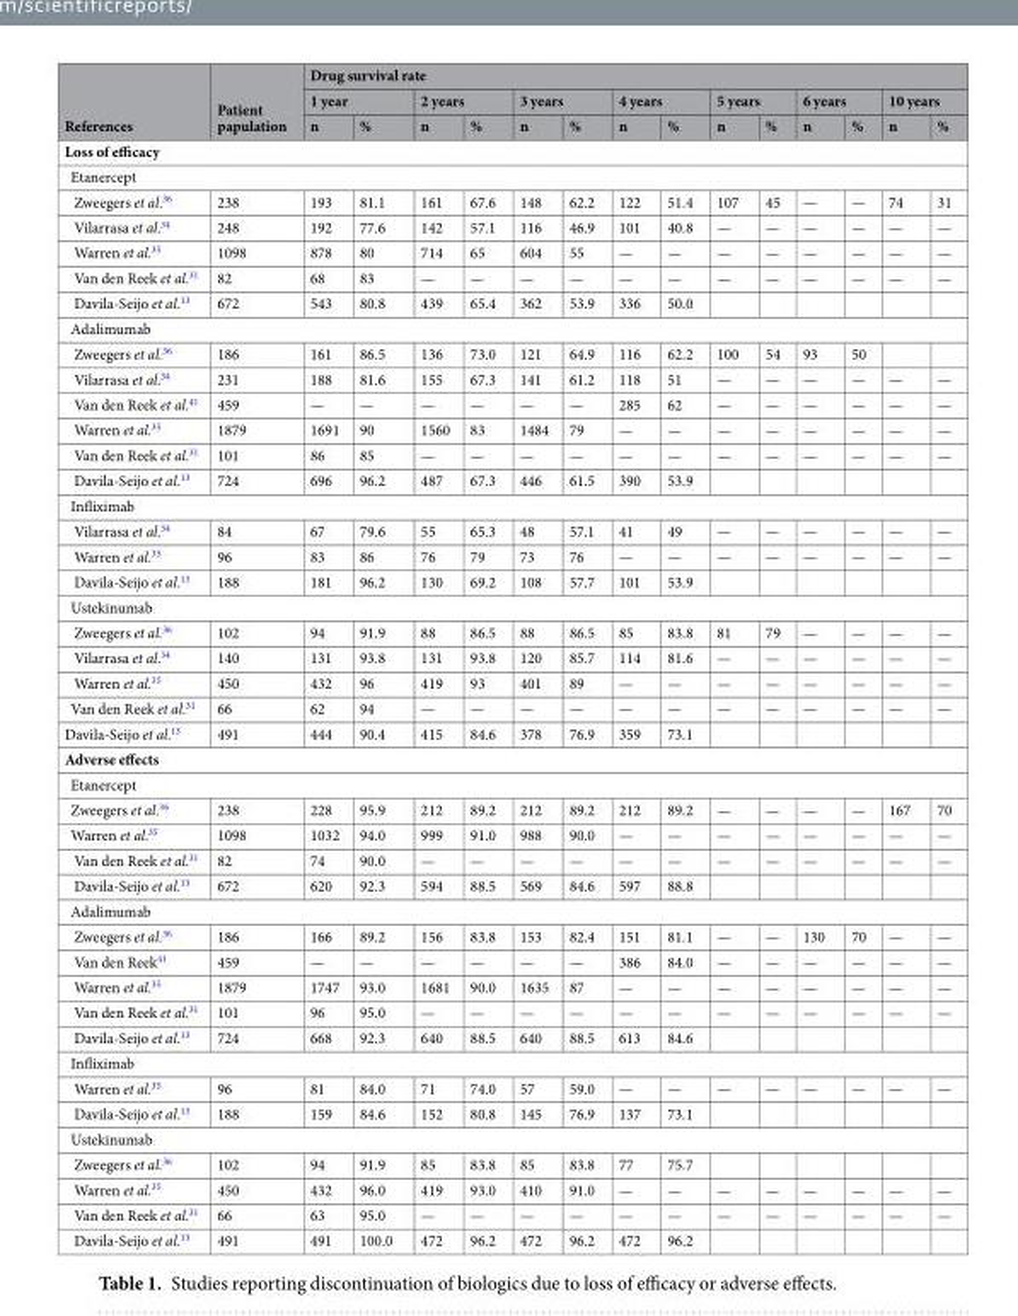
<table><thead><tr><td rowspan="3">References</td><td rowspan="3">Patient papulation</td><td colspan="14">Drug survival rate</td></tr><tr><td colspan="2">1 year</td><td colspan="2">2 years</td><td colspan="2">3 years</td><td colspan="2">4 years</td><td colspan="2">5 years</td><td colspan="2">6 years</td><td colspan="2">10 years</td></tr><tr><td>n</td><td>%</td><td>n</td><td>%</td><td>n</td><td>%</td><td>n</td><td>%</td><td>n</td><td>%</td><td>n</td><td>%</td><td>n</td><td>%</td></tr></thead><tbody><tr><td colspan="16">Loss of efficacy</td></tr><tr><td colspan="16">Etanercept</td></tr><tr><td>Zweegers et al.<sup>36</sup></td><td>238</td><td>193</td><td>81.1</td><td>161</td><td>67.6</td><td>148</td><td>62.2</td><td>122</td><td>51.4</td><td>107</td><td>45</td><td>—</td><td>—</td><td>74</td><td>31</td></tr><tr><td>Vilarrasa et al.<sup>34</sup></td><td>248</td><td>192</td><td>77.6</td><td>142</td><td>57.1</td><td>116</td><td>46.9</td><td>101</td><td>40.8</td><td>—</td><td>—</td><td>—</td><td>—</td><td>—</td><td>—</td></tr><tr><td>Warren et al.<sup>35</sup></td><td>1098</td><td>878</td><td>80</td><td>714</td><td>65</td><td>604</td><td>55</td><td>—</td><td>—</td><td>—</td><td>—</td><td>—</td><td>—</td><td>—</td><td>—</td></tr><tr><td>Van den Reek et al.<sup>31</sup></td><td>82</td><td>68</td><td>83</td><td>—</td><td>—</td><td>—</td><td>—</td><td>—</td><td>—</td><td>—</td><td>—</td><td>—</td><td>—</td><td>—</td><td>—</td></tr><tr><td>Davila-Seijo et al.<sup>13</sup></td><td>672</td><td>543</td><td>80.8</td><td>439</td><td>65.4</td><td>362</td><td>53.9</td><td>336</td><td>50.0</td><td></td><td></td><td></td><td></td><td></td><td></td></tr><tr><td colspan="16">Adalimumab</td></tr><tr><td>Zweegers et al.<sup>36</sup></td><td>186</td><td>161</td><td>86.5</td><td>136</td><td>73.0</td><td>121</td><td>64.9</td><td>116</td><td>62.2</td><td>100</td><td>54</td><td>93</td><td>50</td><td></td><td></td></tr><tr><td>Vilarrasa et al.<sup>34</sup></td><td>231</td><td>188</td><td>81.6</td><td>155</td><td>67.3</td><td>141</td><td>61.2</td><td>118</td><td>51</td><td>—</td><td>—</td><td>—</td><td>—</td><td>—</td><td>—</td></tr><tr><td>Van den Reek et al.<sup>41</sup></td><td>459</td><td>—</td><td>—</td><td>—</td><td>—</td><td>—</td><td>—</td><td>285</td><td>62</td><td>—</td><td>—</td><td>—</td><td>—</td><td>—</td><td>—</td></tr><tr><td>Warren et al.<sup>35</sup></td><td>1879</td><td>1691</td><td>90</td><td>1560</td><td>83</td><td>1484</td><td>79</td><td>—</td><td>—</td><td>—</td><td>—</td><td>—</td><td>—</td><td>—</td><td>—</td></tr><tr><td>Van den Reek et al.<sup>31</sup></td><td>101</td><td>86</td><td>85</td><td>—</td><td>—</td><td>—</td><td>—</td><td>—</td><td>—</td><td>—</td><td>—</td><td>—</td><td>—</td><td>—</td><td>—</td></tr><tr><td>Davila-Seijo et al.<sup>13</sup></td><td>724</td><td>696</td><td>96.2</td><td>487</td><td>67.3</td><td>446</td><td>61.5</td><td>390</td><td>53.9</td><td></td><td></td><td></td><td></td><td></td><td></td></tr><tr><td colspan="16">Infliximab</td></tr><tr><td>Vilarrasa et al.<sup>34</sup></td><td>84</td><td>67</td><td>79.6</td><td>55</td><td>65.3</td><td>48</td><td>57.1</td><td>41</td><td>49</td><td>—</td><td>—</td><td>—</td><td>—</td><td>—</td><td>—</td></tr><tr><td>Warren et al.<sup>35</sup></td><td>96</td><td>83</td><td>86</td><td>76</td><td>79</td><td>73</td><td>76</td><td>—</td><td>—</td><td>—</td><td>—</td><td>—</td><td>—</td><td>—</td><td>—</td></tr><tr><td>Davila-Seijo et al.<sup>13</sup></td><td>188</td><td>181</td><td>96.2</td><td>130</td><td>69.2</td><td>108</td><td>57.7</td><td>101</td><td>53.9</td><td></td><td></td><td></td><td></td><td></td><td></td></tr><tr><td colspan="16">Ustekinumab</td></tr><tr><td>Zweegers et al.<sup>36</sup></td><td>102</td><td>94</td><td>91.9</td><td>88</td><td>86.5</td><td>88</td><td>86.5</td><td>85</td><td>83.8</td><td>81</td><td>79</td><td>—</td><td>—</td><td>—</td><td>—</td></tr><tr><td>Vilarrasa et al.<sup>34</sup></td><td>140</td><td>131</td><td>93.8</td><td>131</td><td>93.8</td><td>120</td><td>85.7</td><td>114</td><td>81.6</td><td>—</td><td>—</td><td>—</td><td>—</td><td>—</td><td>—</td></tr><tr><td>Warren et al.<sup>35</sup></td><td>450</td><td>432</td><td>96</td><td>419</td><td>93</td><td>401</td><td>89</td><td>—</td><td>—</td><td>—</td><td>—</td><td>—</td><td>—</td><td>—</td><td>—</td></tr><tr><td>Van den Reek et al.<sup>31</sup></td><td>66</td><td>62</td><td>94</td><td>—</td><td>—</td><td>—</td><td>—</td><td>—</td><td>—</td><td>—</td><td>—</td><td>—</td><td>—</td><td>—</td><td>—</td></tr><tr><td>Davila-Seijo et al.<sup>13</sup></td><td>491</td><td>444</td><td>90.4</td><td>415</td><td>84.6</td><td>378</td><td>76.9</td><td>359</td><td>73.1</td><td></td><td></td><td></td><td></td><td></td><td></td></tr><tr><td colspan="16">Adverse effects</td></tr><tr><td colspan="16">Etanercept</td></tr><tr><td>Zweegers et al.<sup>36</sup></td><td>238</td><td>228</td><td>95.9</td><td>212</td><td>89.2</td><td>212</td><td>89.2</td><td>212</td><td>89.2</td><td>—</td><td>—</td><td>—</td><td>—</td><td>167</td><td>70</td></tr><tr><td>Warren et al.<sup>35</sup></td><td>1098</td><td>1032</td><td>94.0</td><td>999</td><td>91.0</td><td>988</td><td>90.0</td><td>—</td><td>—</td><td>—</td><td>—</td><td>—</td><td>—</td><td>—</td><td>—</td></tr><tr><td>Van den Reek et al.<sup>31</sup></td><td>82</td><td>74</td><td>90.0</td><td>—</td><td>—</td><td>—</td><td>—</td><td>—</td><td>—</td><td>—</td><td>—</td><td>—</td><td>—</td><td>—</td><td>—</td></tr><tr><td>Davila-Seijo et al.<sup>13</sup></td><td>672</td><td>620</td><td>92.3</td><td>594</td><td>88.5</td><td>569</td><td>84.6</td><td>597</td><td>88.8</td><td></td><td></td><td></td><td></td><td></td><td></td></tr><tr><td colspan="16">Adalimumab</td></tr><tr><td>Zweegers et al.<sup>36</sup></td><td>186</td><td>166</td><td>89.2</td><td>156</td><td>83.8</td><td>153</td><td>82.4</td><td>151</td><td>81.1</td><td>—</td><td>—</td><td>130</td><td>70</td><td>—</td><td>—</td></tr><tr><td>Van den Reek<sup>41</sup></td><td>459</td><td>—</td><td>—</td><td>—</td><td>—</td><td>—</td><td>—</td><td>386</td><td>84.0</td><td>—</td><td>—</td><td>—</td><td>—</td><td>—</td><td>—</td></tr><tr><td>Warren et al.<sup>35</sup></td><td>1879</td><td>1747</td><td>93.0</td><td>1681</td><td>90.0</td><td>1635</td><td>87</td><td>—</td><td>—</td><td>—</td><td>—</td><td>—</td><td>—</td><td>—</td><td>—</td></tr><tr><td>Van den Reek et al.<sup>31</sup></td><td>101</td><td>96</td><td>95.0</td><td>—</td><td>—</td><td>—</td><td>—</td><td>—</td><td>—</td><td>—</td><td>—</td><td>—</td><td>—</td><td>—</td><td>—</td></tr><tr><td>Davila-Seijo et al.<sup>13</sup></td><td>724</td><td>668</td><td>92.3</td><td>640</td><td>88.5</td><td>640</td><td>88.5</td><td>613</td><td>84.6</td><td></td><td></td><td></td><td></td><td></td><td></td></tr><tr><td colspan="16">Infliximab</td></tr><tr><td>Warren et al.<sup>35</sup></td><td>96</td><td>81</td><td>84.0</td><td>71</td><td>74.0</td><td>57</td><td>59.0</td><td>—</td><td>—</td><td>—</td><td>—</td><td>—</td><td>—</td><td>—</td><td>—</td></tr><tr><td>Davila-Seijo et al.<sup>13</sup></td><td>188</td><td>159</td><td>84.6</td><td>152</td><td>80.8</td><td>145</td><td>76.9</td><td>137</td><td>73.1</td><td></td><td></td><td></td><td></td><td></td><td></td></tr><tr><td colspan="16">Ustekinumab</td></tr><tr><td>Zweegers et al.<sup>36</sup></td><td>102</td><td>94</td><td>91.9</td><td>85</td><td>83.8</td><td>85</td><td>83.8</td><td>77</td><td>75.7</td><td></td><td></td><td></td><td></td><td></td><td></td></tr><tr><td>Warren et al.<sup>35</sup></td><td>450</td><td>432</td><td>96.0</td><td>419</td><td>93.0</td><td>410</td><td>91.0</td><td>—</td><td>—</td><td>—</td><td>—</td><td>—</td><td>—</td><td>—</td><td>—</td></tr><tr><td>Van den Reek et al.<sup>31</sup></td><td>66</td><td>63</td><td>95.0</td><td>—</td><td>—</td><td>—</td><td>—</td><td>—</td><td>—</td><td>—</td><td>—</td><td>—</td><td>—</td><td>—</td><td>—</td></tr><tr><td>Davila-Seijo et al.<sup>13</sup></td><td>491</td><td>491</td><td>100.0</td><td>472</td><td>96.2</td><td>472</td><td>96.2</td><td>472</td><td>96.2</td><td></td><td></td><td></td><td></td><td></td><td></td></tr></tbody></table>